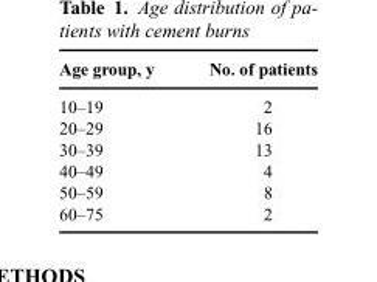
<table><thead><tr><td>Age group, y</td><td>No. of patients</td></tr></thead><tbody><tr><td>10–19</td><td>2</td></tr><tr><td>20–29</td><td>16</td></tr><tr><td>30–39</td><td>13</td></tr><tr><td>40–49</td><td>4</td></tr><tr><td>50–59</td><td>8</td></tr><tr><td>60–75</td><td>2</td></tr></tbody></table>